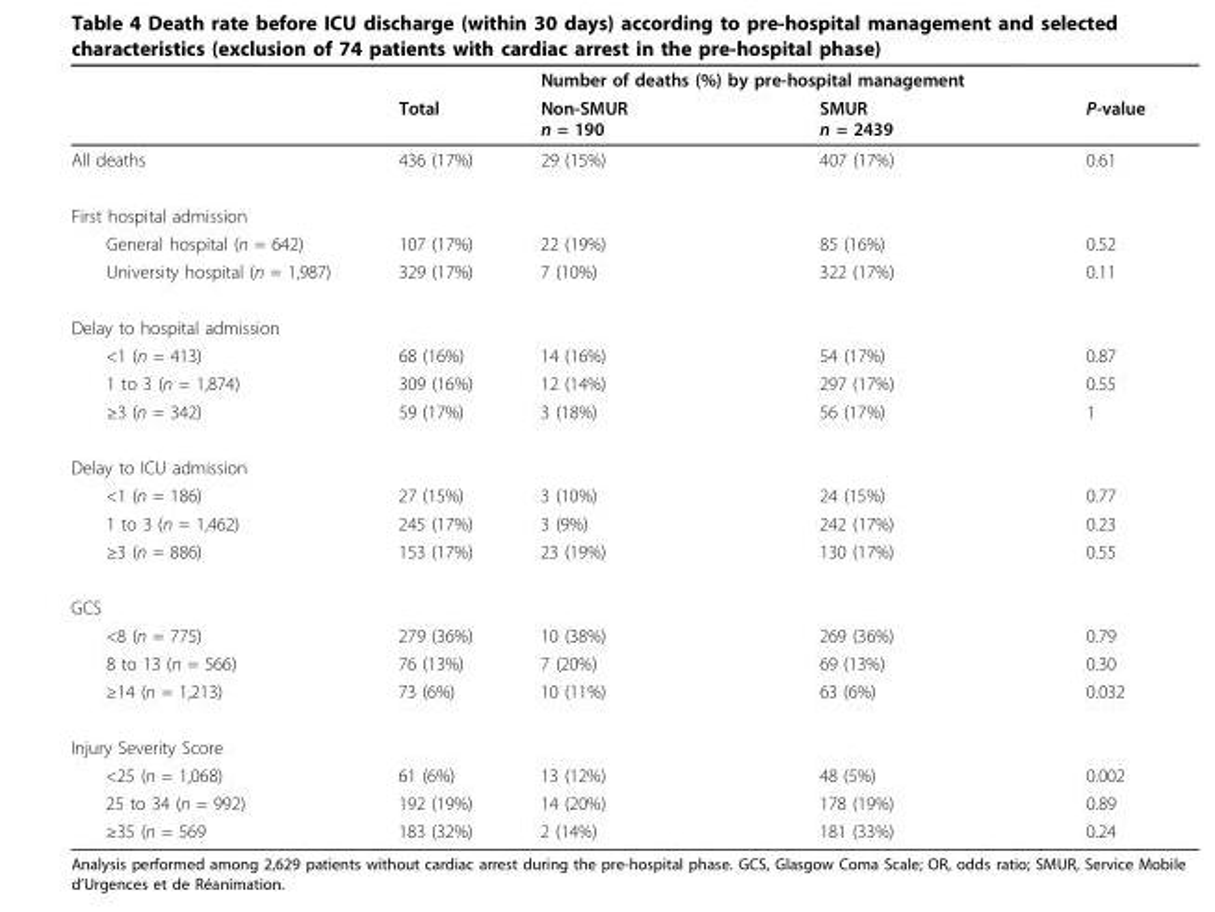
<table><thead><tr><td rowspan="2"></td><td rowspan="2">Total</td><td colspan="2">Number of deaths (%) by pre-hospital management</td><td rowspan="2">P-value</td></tr><tr><td>Non-SMUR n = 190</td><td>SMUR n = 2439</td></tr></thead><tbody><tr><td>All deaths</td><td>436 (17%)</td><td>29 (15%)</td><td>407 (17%)</td><td>0.61</td></tr><tr><td colspan="5">First hospital admission</td></tr><tr><td>General hospital (n = 642)</td><td>107 (17%)</td><td>22 (19%)</td><td>85 (16%)</td><td>0.52</td></tr><tr><td>University hospital (n = 1,987)</td><td>329 (17%)</td><td>7 (10%)</td><td>322 (17%)</td><td>0.11</td></tr><tr><td colspan="5">Delay to hospital admission</td></tr><tr><td>&lt;1 (n = 413)</td><td>68 (16%)</td><td>14 (16%)</td><td>54 (17%)</td><td>0.87</td></tr><tr><td>1 to 3 (n = 1,874)</td><td>309 (16%)</td><td>12 (14%)</td><td>297 (17%)</td><td>0.55</td></tr><tr><td>≥3 (n = 342)</td><td>59 (17%)</td><td>3 (18%)</td><td>56 (17%)</td><td>1</td></tr><tr><td colspan="5">Delay to ICU admission</td></tr><tr><td>&lt;1 (n = 186)</td><td>27 (15%)</td><td>3 (10%)</td><td>24 (15%)</td><td>0.77</td></tr><tr><td>1 to 3 (n = 1,462)</td><td>245 (17%)</td><td>3 (9%)</td><td>242 (17%)</td><td>0.23</td></tr><tr><td>≥3 (n = 886)</td><td>153 (17%)</td><td>23 (19%)</td><td>130 (17%)</td><td>0.55</td></tr><tr><td colspan="5">GCS</td></tr><tr><td>&lt;8 (n = 775)</td><td>279 (36%)</td><td>10 (38%)</td><td>269 (36%)</td><td>0.79</td></tr><tr><td>8 to 13 (n = 566)</td><td>76 (13%)</td><td>7 (20%)</td><td>69 (13%)</td><td>0.30</td></tr><tr><td>≥14 (n = 1,213)</td><td>73 (6%)</td><td>10 (11%)</td><td>63 (6%)</td><td>0.032</td></tr><tr><td colspan="5">Injury Severity Score</td></tr><tr><td>&lt;25 (n = 1,068)</td><td>61 (6%)</td><td>13 (12%)</td><td>48 (5%)</td><td>0.002</td></tr><tr><td>25 to 34 (n = 992)</td><td>192 (19%)</td><td>14 (20%)</td><td>178 (19%)</td><td>0.89</td></tr><tr><td>≥35 (n = 569</td><td>183 (32%)</td><td>2 (14%)</td><td>181 (33%)</td><td>0.24</td></tr></tbody></table>